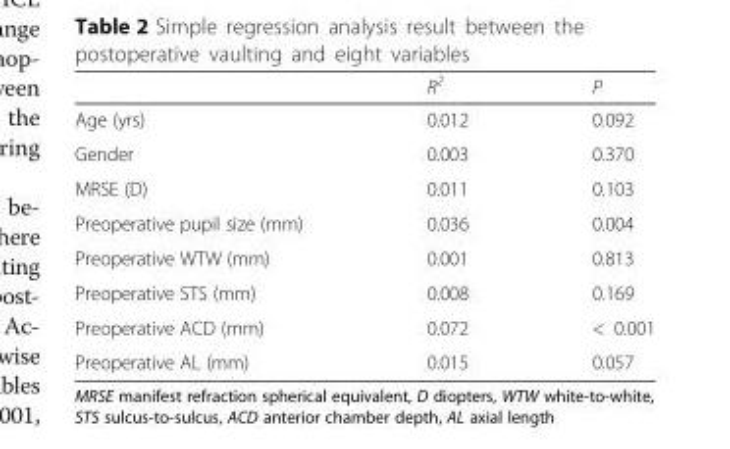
<table><thead><tr><td></td><td>R<sup>2</sup></td><td>P</td></tr></thead><tbody><tr><td>Age (yrs)</td><td>0.012</td><td>0.092</td></tr><tr><td>Gender</td><td>0.003</td><td>0.370</td></tr><tr><td>MRSE (D)</td><td>0.011</td><td>0.103</td></tr><tr><td>Preoperative pupil size (mm)</td><td>0.036</td><td>0.004</td></tr><tr><td>Preoperative WTW (mm)</td><td>0.001</td><td>0.813</td></tr><tr><td>Preoperative STS (mm)</td><td>0.008</td><td>0.169</td></tr><tr><td>Preoperative ACD (mm)</td><td>0.072</td><td>&lt; 0.001</td></tr><tr><td>Preoperative AL (mm)</td><td>0.015</td><td>0.057</td></tr></tbody></table>